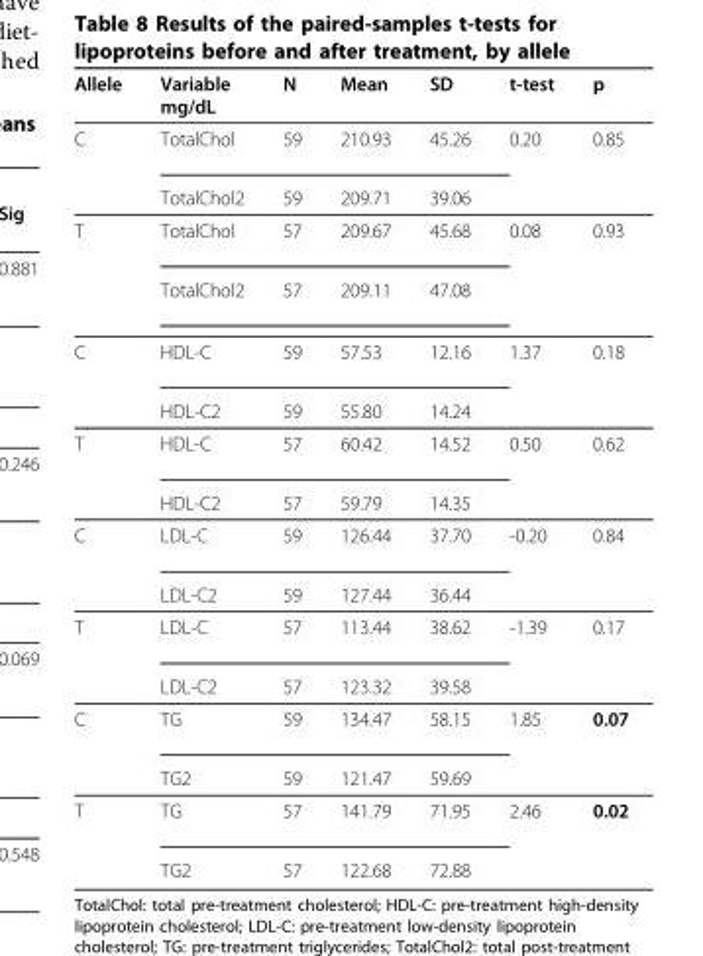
<table><thead><tr><td>Allele</td><td>Variable mg/dL</td><td>N</td><td>Mean</td><td>SD</td><td>t-test</td><td>p</td></tr></thead><tbody><tr><td rowspan="2">C</td><td>TotalChol</td><td>59</td><td>210.93</td><td>45.26</td><td>0.20</td><td>0.85</td></tr><tr><td>TotalChol2</td><td>59</td><td>209.71</td><td>39.06</td><td></td><td></td></tr><tr><td rowspan="2">T</td><td>TotalChol</td><td>57</td><td>209.67</td><td>45.68</td><td>0.08</td><td>0.93</td></tr><tr><td>TotalChol2</td><td>57</td><td>209.11</td><td>47.08</td><td></td><td></td></tr><tr><td rowspan="2">C</td><td>HDL-C</td><td>59</td><td>57.53</td><td>12.16</td><td>1.37</td><td>0.18</td></tr><tr><td>HDL-C2</td><td>59</td><td>55.80</td><td>14.24</td><td></td><td></td></tr><tr><td rowspan="2">T</td><td>HDL-C</td><td>57</td><td>60.42</td><td>14.52</td><td>0.50</td><td>0.62</td></tr><tr><td>HDL-C2</td><td>57</td><td>59.79</td><td>14.35</td><td></td><td></td></tr><tr><td rowspan="2">C</td><td>LDL-C</td><td>59</td><td>126.44</td><td>37.70</td><td>-0.20</td><td>0.84</td></tr><tr><td>LDL-C2</td><td>59</td><td>127.44</td><td>36.44</td><td></td><td></td></tr><tr><td rowspan="2">T</td><td>LDL-C</td><td>57</td><td>113.44</td><td>38.62</td><td>-1.39</td><td>0.17</td></tr><tr><td>LDL-C2</td><td>57</td><td>123.32</td><td>39.58</td><td></td><td></td></tr><tr><td rowspan="2">C</td><td>TG</td><td>59</td><td>134.47</td><td>58.15</td><td>1.85</td><td>0.07</td></tr><tr><td>TG2</td><td>59</td><td>121.47</td><td>59.69</td><td></td><td></td></tr><tr><td rowspan="2">T</td><td>TG</td><td>57</td><td>141.79</td><td>71.95</td><td>2.46</td><td>0.02</td></tr><tr><td>TG2</td><td>57</td><td>122.68</td><td>72.88</td><td></td><td></td></tr></tbody></table>